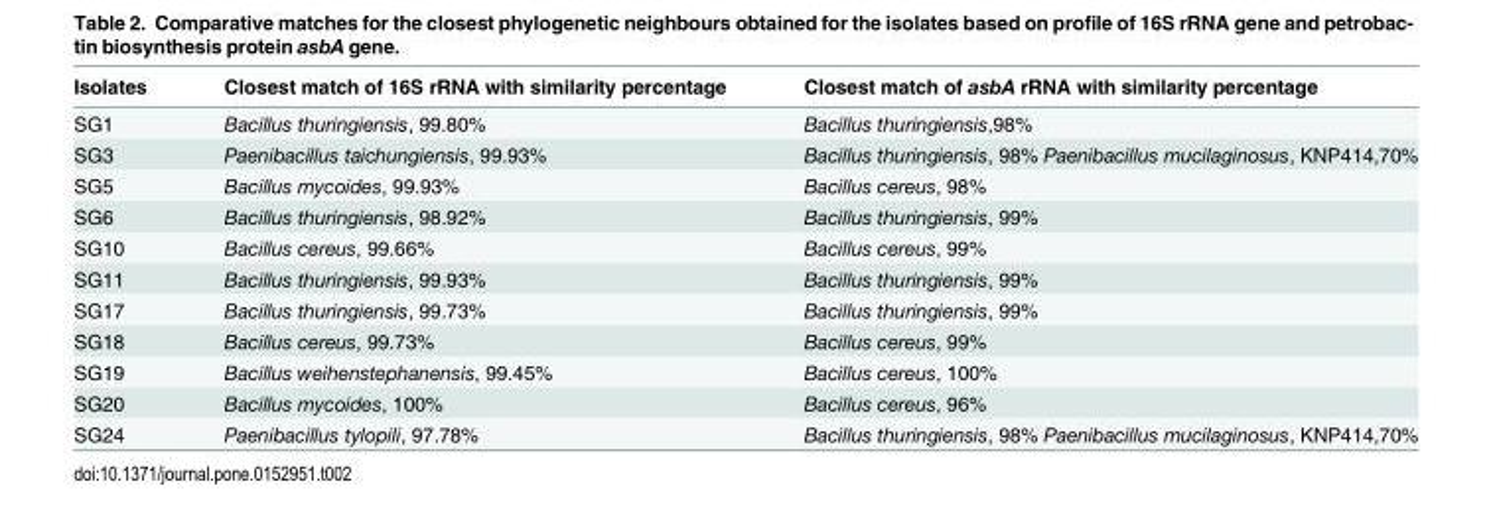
<table><thead><tr><td>Isolates</td><td>Closest match of 16S rRNA with similarity percentage</td><td>Closest match of asbA rRNA with similarity percentage</td></tr></thead><tbody><tr><td>SG1</td><td>Bacillus thuringiensis, 99.80%</td><td>Bacillus thuringiensis,98%</td></tr><tr><td>SG3</td><td>Paenibacillus taichungiensis, 99.93%</td><td>Bacillus thuringiensis, 98% Paenibacillus mucilaginosus, KNP414,70%</td></tr><tr><td>SG5</td><td>Bacillus mycoides, 99.93%</td><td>Bacillus cereus, 98%</td></tr><tr><td>SG6</td><td>Bacillus thuringiensis, 98.92%</td><td>Bacillus thuringiensis, 99%</td></tr><tr><td>SG10</td><td>Bacillus cereus, 99.66%</td><td>Bacillus cereus, 99%</td></tr><tr><td>SG11</td><td>Bacillus thuringiensis, 99.93%</td><td>Bacillus thuringiensis, 99%</td></tr><tr><td>SG17</td><td>Bacillus thuringiensis, 99.73%</td><td>Bacillus thuringiensis, 99%</td></tr><tr><td>SG18</td><td>Bacillus cereus, 99.73%</td><td>Bacillus cereus, 99%</td></tr><tr><td>SG19</td><td>Bacillus weihenstephanensis, 99.45%</td><td>Bacillus cereus, 100%</td></tr><tr><td>SG20</td><td>Bacillus mycoides, 100%</td><td>Bacillus cereus, 96%</td></tr><tr><td>SG24</td><td>Paenibacillus tylopili, 97.78%</td><td>Bacillus thuringiensis, 98% Paenibacillus mucilaginosus, KNP414,70%</td></tr></tbody></table>